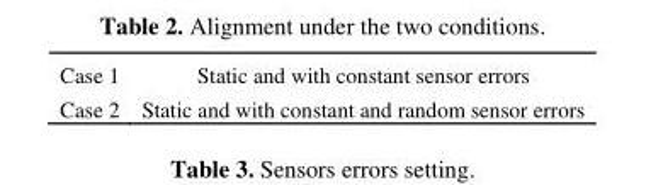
<table><tbody><tr><td>Case 1</td><td>Static and with constant sensor errors</td></tr><tr><td>Case 2</td><td>Static and with constant and random sensor errors</td></tr></tbody></table>